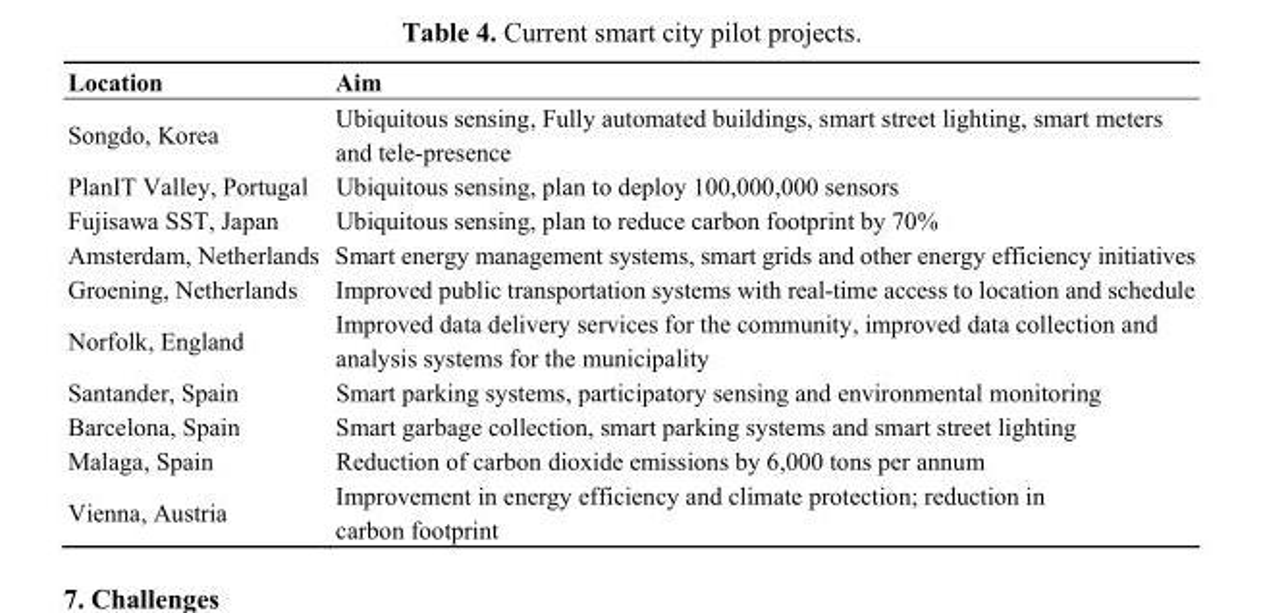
<table><thead><tr><td>Location</td><td>Aim</td></tr></thead><tbody><tr><td>Songdo, Korea</td><td>Ubiquitous sensing, Fully automated buildings, smart street lighting, smart meters and tele-presence</td></tr><tr><td>PlanIT Valley, Portugal</td><td>Ubiquitous sensing, plan to deploy 100,000,000 sensors</td></tr><tr><td>Fujisawa SST, Japan</td><td>Ubiquitous sensing, plan to reduce carbon footprint by 70%</td></tr><tr><td>Amsterdam, Netherlands</td><td>Smart energy management systems, smart grids and other energy efficiency initiatives</td></tr><tr><td>Groening, Netherlands</td><td>Improved public transportation systems with real-time access to location and schedule</td></tr><tr><td>Norfolk, England</td><td>Improved data delivery services for the community, improved data collection and analysis systems for the municipality</td></tr><tr><td>Santander, Spain</td><td>Smart parking systems, participatory sensing and environmental monitoring</td></tr><tr><td>Barcelona, Spain</td><td>Smart garbage collection, smart parking systems and smart street lighting</td></tr><tr><td>Malaga, Spain</td><td>Reduction of carbon dioxide emissions by 6,000 tons per annum</td></tr><tr><td>Vienna, Austria</td><td>Improvement in energy efficiency and climate protection; reduction in carbon footprint</td></tr></tbody></table>